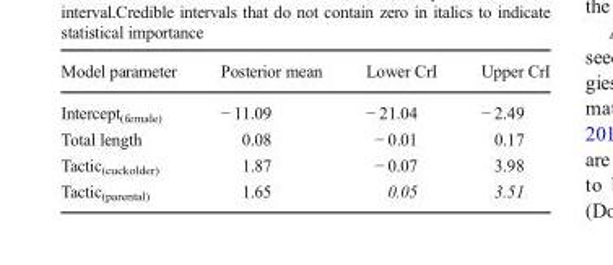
<table><thead><tr><td>Model parameter</td><td>Posterior mean</td><td>Lower CrI</td><td>Upper CrI</td></tr></thead><tbody><tr><td>Intercept<sub>(female)</sub></td><td>− 11.09</td><td>− 21.04</td><td>− 2.49</td></tr><tr><td>Total length</td><td>0.08</td><td>− 0.01</td><td>0.17</td></tr><tr><td>Tactic<sub>(cuckolder)</sub></td><td>1.87</td><td>− 0.07</td><td>3.98</td></tr><tr><td>Tactic<sub>(parental)</sub></td><td>1.65</td><td>0.05</td><td>3.51</td></tr></tbody></table>